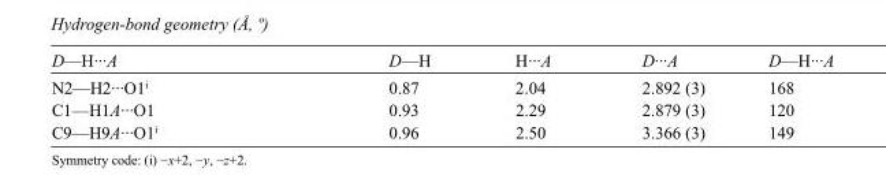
<table><tbody><tr><td>D—H···A</td><td>D—H</td><td>H···A</td><td>D···A</td><td>D—H···A</td></tr><tr><td>N2—H2···O1<sup>i</sup></td><td>0.87</td><td>2.04</td><td>2.892 (3)</td><td>168</td></tr><tr><td>C1—H1A···O1</td><td>0.93</td><td>2.29</td><td>2.879 (3)</td><td>120</td></tr><tr><td>C9—H9A···O1<sup>i</sup></td><td>0.96</td><td>2.50</td><td>3.366 (3)</td><td>149</td></tr></tbody></table>